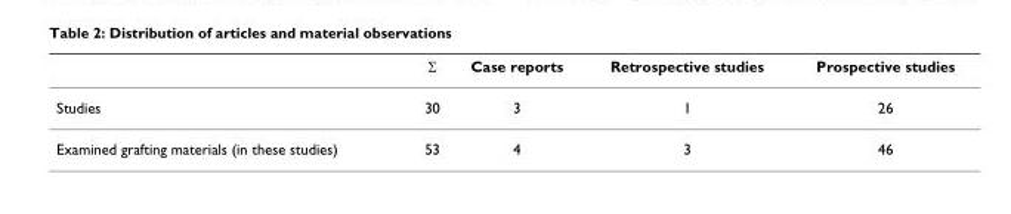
<table><thead><tr><td></td><td>Σ</td><td>Case reports</td><td>Retrospective studies</td><td>Prospective studies</td></tr></thead><tbody><tr><td>Studies</td><td>30</td><td>3</td><td>1</td><td>26</td></tr><tr><td>Examined grafting materials (in these studies)</td><td>53</td><td>4</td><td>3</td><td>46</td></tr></tbody></table>